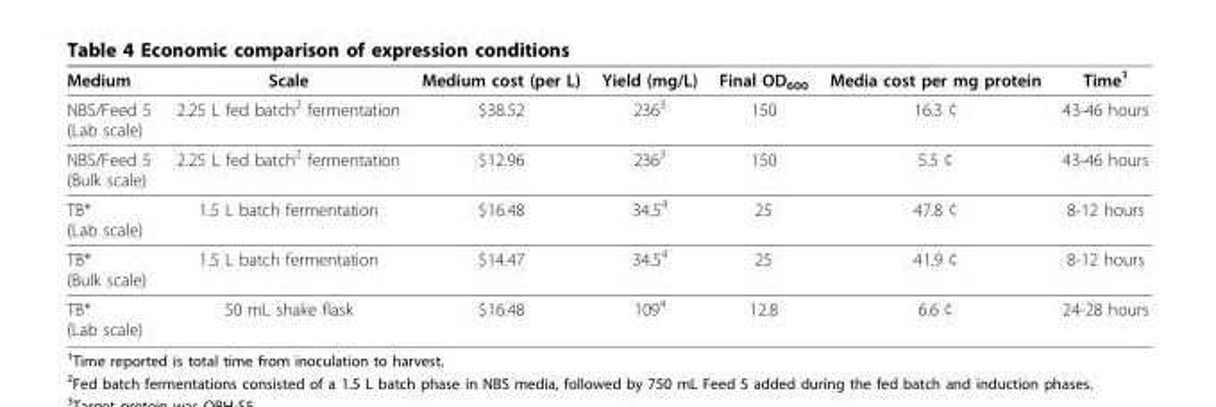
<table><thead><tr><td>Medium</td><td>Scale</td><td>Medium cost (per L)</td><td>Yield (mg/L)</td><td>Final OD<sub>600</sub></td><td>Media cost per mg protein</td><td>Time<sup>1</sup></td></tr></thead><tbody><tr><td>NBS/Feed 5 (Lab scale)</td><td>2.25 L fed batch<sup>2</sup> fermentation</td><td>$38.52</td><td>236<sup>3</sup></td><td>150</td><td>16.3 ¢</td><td>43-46 hours</td></tr><tr><td>NBS/Feed 5 (Bulk scale)</td><td>2.25 L fed batch<sup>2</sup> fermentation</td><td>$12.96</td><td>236<sup>3</sup></td><td>150</td><td>5.5 ¢</td><td>43-46 hours</td></tr><tr><td>TB* (Lab scale)</td><td>1.5 L batch fermentation</td><td>$16.48</td><td>34.5<sup>4</sup></td><td>25</td><td>47.8 ¢</td><td>8-12 hours</td></tr><tr><td>TB* (Bulk scale)</td><td>1.5 L batch fermentation</td><td>$14.47</td><td>34.5<sup>4</sup></td><td>25</td><td>41.9 ¢</td><td>8-12 hours</td></tr><tr><td>TB* (Lab scale)</td><td>50 mL shake flask</td><td>$16.48</td><td>109<sup>4</sup></td><td>12.8</td><td>6.6 ¢</td><td>24-28 hours</td></tr></tbody></table>